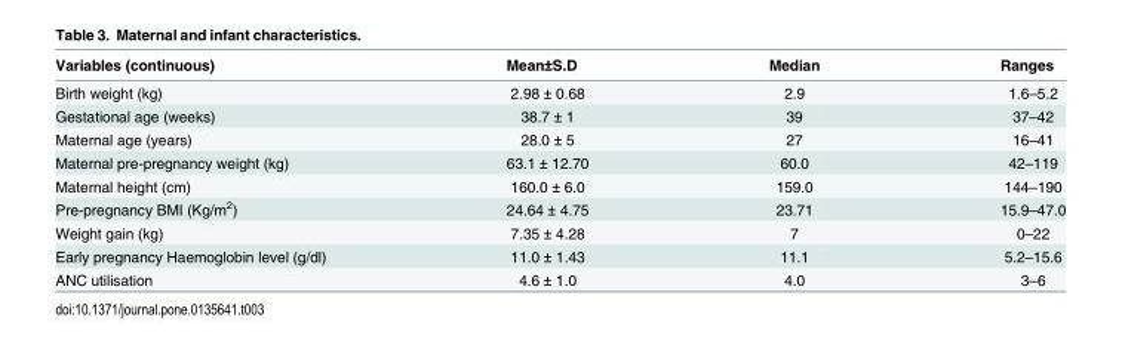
<table><thead><tr><td>Variables (continuous)</td><td>Mean±S.D</td><td>Median</td><td>Ranges</td></tr></thead><tbody><tr><td>Birth weight (kg)</td><td>2.98 ± 0.68</td><td>2.9</td><td>1.6–5.2</td></tr><tr><td>Gestational age (weeks)</td><td>38.7 ± 1</td><td>39</td><td>37–42</td></tr><tr><td>Maternal age (years)</td><td>28.0 ± 5</td><td>27</td><td>16–41</td></tr><tr><td>Maternal pre-pregnancy weight (kg)</td><td>63.1 ± 12.70</td><td>60.0</td><td>42–119</td></tr><tr><td>Maternal height (cm)</td><td>160.0 ± 6.0</td><td>159.0</td><td>144–190</td></tr><tr><td>Pre-pregnancy BMI (Kg/m<sup>2</sup>)</td><td>24.64 ± 4.75</td><td>23.71</td><td>15.9–47.0</td></tr><tr><td>Weight gain (kg)</td><td>7.35 ± 4.28</td><td>7</td><td>0–22</td></tr><tr><td>Early pregnancy Haemoglobin level (g/dl)</td><td>11.0 ± 1.43</td><td>11.1</td><td>5.2–15.6</td></tr><tr><td>ANC utilisation</td><td>4.6 ± 1.0</td><td>4.0</td><td>3–6</td></tr></tbody></table>